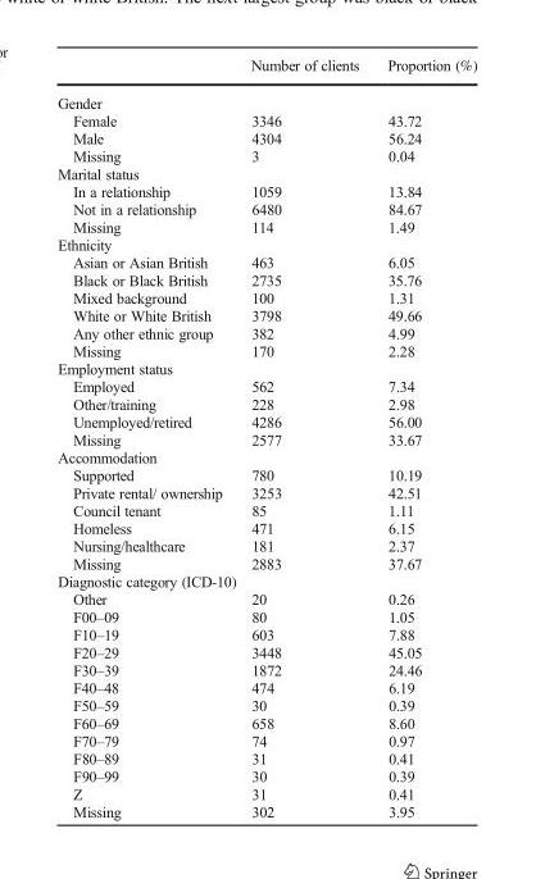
<table><thead><tr><td></td><td>Number of clients</td><td>Proportion (%)</td></tr></thead><tbody><tr><td colspan="3">Gender</td></tr><tr><td>Female</td><td>3346</td><td>43.72</td></tr><tr><td>Male</td><td>4304</td><td>56.24</td></tr><tr><td>Missing</td><td>3</td><td>0.04</td></tr><tr><td colspan="3">Marital status</td></tr><tr><td>In a relationship</td><td>1059</td><td>13.84</td></tr><tr><td>Not in a relationship</td><td>6480</td><td>84.67</td></tr><tr><td>Missing</td><td>114</td><td>1.49</td></tr><tr><td colspan="3">Ethnicity</td></tr><tr><td>Asian or Asian British</td><td>463</td><td>6.05</td></tr><tr><td>Black or Black British</td><td>2735</td><td>35.76</td></tr><tr><td>Mixed background</td><td>100</td><td>1.31</td></tr><tr><td>White or White British</td><td>3798</td><td>49.66</td></tr><tr><td>Any other ethnic group</td><td>382</td><td>4.99</td></tr><tr><td>Missing</td><td>170</td><td>2.28</td></tr><tr><td colspan="3">Employment status</td></tr><tr><td>Employed</td><td>562</td><td>7.34</td></tr><tr><td>Other/training</td><td>228</td><td>2.98</td></tr><tr><td>Unemployed/retired</td><td>4286</td><td>56.00</td></tr><tr><td>Missing</td><td>2577</td><td>33.67</td></tr><tr><td colspan="3">Accommodation</td></tr><tr><td>Supported</td><td>780</td><td>10.19</td></tr><tr><td>Private rental/ ownership</td><td>3253</td><td>42.51</td></tr><tr><td>Council tenant</td><td>85</td><td>1.11</td></tr><tr><td>Homeless</td><td>471</td><td>6.15</td></tr><tr><td>Nursing/healthcare</td><td>181</td><td>2.37</td></tr><tr><td>Missing</td><td>2883</td><td>37.67</td></tr><tr><td colspan="3">Diagnostic category (ICD-10)</td></tr><tr><td>Other</td><td>20</td><td>0.26</td></tr><tr><td>F00–09</td><td>80</td><td>1.05</td></tr><tr><td>F10–19</td><td>603</td><td>7.88</td></tr><tr><td>F20–29</td><td>3448</td><td>45.05</td></tr><tr><td>F30–39</td><td>1872</td><td>24.46</td></tr><tr><td>F40–48</td><td>474</td><td>6.19</td></tr><tr><td>F50–59</td><td>30</td><td>0.39</td></tr><tr><td>F60–69</td><td>658</td><td>8.60</td></tr><tr><td>F70–79</td><td>74</td><td>0.97</td></tr><tr><td>F80–89</td><td>31</td><td>0.41</td></tr><tr><td>F90–99</td><td>30</td><td>0.39</td></tr><tr><td>Z</td><td>31</td><td>0.41</td></tr><tr><td>Missing</td><td>302</td><td>3.95</td></tr></tbody></table>